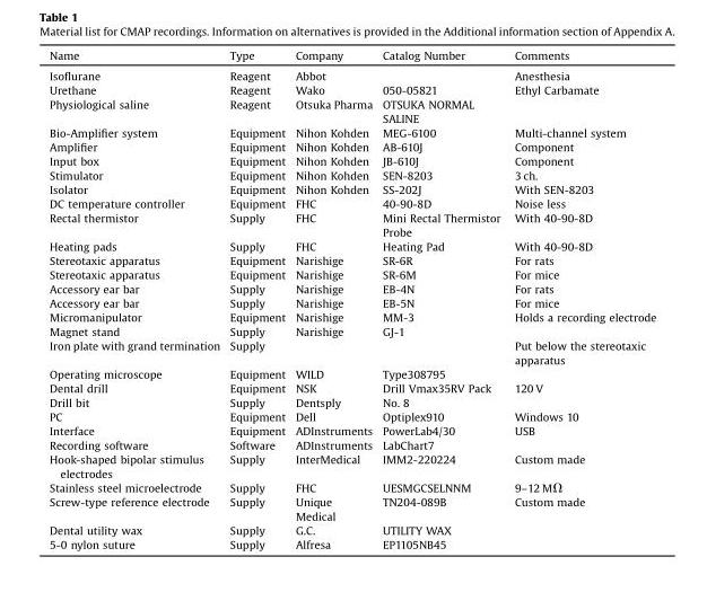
<table><thead><tr><td>Name</td><td>Type</td><td>Company</td><td>Catalog Number</td><td>Comments</td></tr></thead><tbody><tr><td>Isoflurane</td><td>Reagent</td><td>Abbot</td><td></td><td>Anesthesia</td></tr><tr><td>Urethane</td><td>Reagent</td><td>Wako</td><td>050-05821</td><td>Ethyl Carbamate</td></tr><tr><td>Physiological saline</td><td>Reagent</td><td>Otsuka Pharma</td><td>OTSUKA NORMAL SALINE</td><td></td></tr><tr><td>Bio-Amplifier system</td><td>Equipment</td><td>Nihon Kohden</td><td>MEG-6100</td><td>Multi-channel system</td></tr><tr><td>Amplifier</td><td>Equipment</td><td>Nihon Kohden</td><td>AB-610J</td><td>Component</td></tr><tr><td>Input box</td><td>Equipment</td><td>Nihon Kohden</td><td>JB-610J</td><td>Component</td></tr><tr><td>Stimulator</td><td>Equipment</td><td>Nihon Kohden</td><td>SEN-8203</td><td>3 ch.</td></tr><tr><td>Isolator</td><td>Equipment</td><td>Nihon Kohden</td><td>SS-202J</td><td>With SEN-8203</td></tr><tr><td>DC temperature controller</td><td>Equipment</td><td>FHC</td><td>40-90-8D</td><td>Noise less</td></tr><tr><td>Rectal thermistor</td><td>Supply</td><td>FHC</td><td>Mini Rectal Thermistor Probe</td><td>With 40-90-8D</td></tr><tr><td>Heating pads</td><td>Supply</td><td>FHC</td><td>Heating Pad</td><td>With 40-90-8D</td></tr><tr><td>Stereotaxic apparatus</td><td>Equipment</td><td>Narishige</td><td>SR-6R</td><td>For rats</td></tr><tr><td>Stereotaxic apparatus</td><td>Equipment</td><td>Narishige</td><td>SR-6M</td><td>For mice</td></tr><tr><td>Accessory ear bar</td><td>Supply</td><td>Narishige</td><td>EB-4N</td><td>For rats</td></tr><tr><td>Accessory ear bar</td><td>Supply</td><td>Narishige</td><td>EB-5N</td><td>For mice</td></tr><tr><td>Micromanipulator</td><td>Equipment</td><td>Narishige</td><td>MM-3</td><td>Holds a recording electrode</td></tr><tr><td>Magnet stand</td><td>Supply</td><td>Narishige</td><td>GJ-1</td><td></td></tr><tr><td>Iron plate with grand termination</td><td>Supply</td><td></td><td></td><td>Put below the stereotaxic apparatus</td></tr><tr><td>Operating microscope</td><td>Equipment</td><td>WILD</td><td>Type308795</td><td></td></tr><tr><td>Dental drill</td><td>Equipment</td><td>NSK</td><td>Drill Vmax35RV Pack</td><td>120 V</td></tr><tr><td>Drill bit</td><td>Supply</td><td>Dentsply</td><td>No. 8</td><td></td></tr><tr><td>PC</td><td>Equipment</td><td>Dell</td><td>Optiplex910</td><td>Windows 10</td></tr><tr><td>Interface</td><td>Equipment</td><td>ADInstruments</td><td>PowerLab4/30</td><td>USB</td></tr><tr><td>Recording software</td><td>Software</td><td>ADInstruments</td><td>LabChart7</td><td></td></tr><tr><td>Hook-shaped bipolar stimulus electrodes</td><td>Supply</td><td>InterMedical</td><td>IMM2-220224</td><td>Custom made</td></tr><tr><td>Stainless steel microelectrode</td><td>Supply</td><td>FHC</td><td>UESMGCSELNNM</td><td>9–12 MΩ</td></tr><tr><td>Screw-type reference electrode</td><td>Supply</td><td>Unique Medical</td><td>TN204-089B</td><td>Custom made</td></tr><tr><td>Dental utility wax</td><td>Supply</td><td>G.C.</td><td>UTILITY WAX</td><td></td></tr><tr><td>5-0 nylon suture</td><td>Supply</td><td>Alfresa</td><td>EP1105NB45</td><td></td></tr></tbody></table>